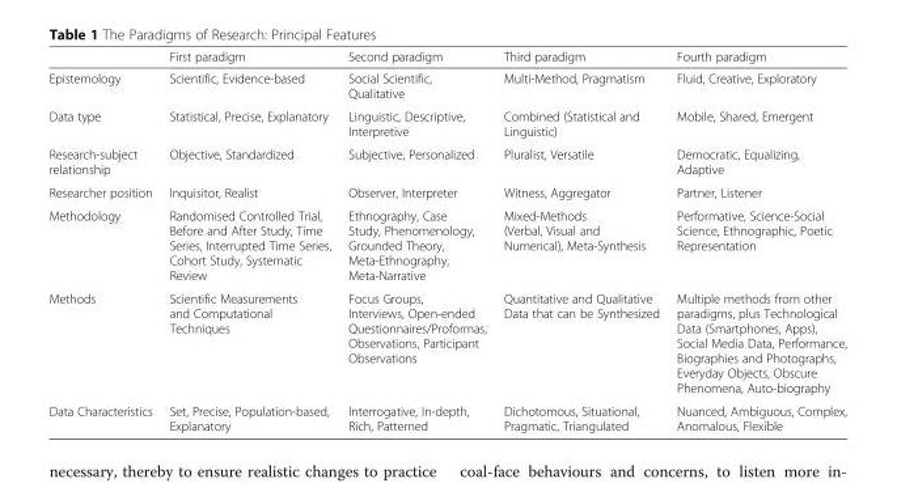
<table><thead><tr><td></td><td>First paradigm</td><td>Second paradigm</td><td>Third paradigm</td><td>Fourth paradigm</td></tr></thead><tbody><tr><td>Epistemology</td><td>Scientific, Evidence-based</td><td>Social Scientific, Qualitative</td><td>Multi-Method, Pragmatism</td><td>Fluid, Creative, Exploratory</td></tr><tr><td>Data type</td><td>Statistical, Precise, Explanatory</td><td>Linguistic, Descriptive, Interpretive</td><td>Combined (Statistical and Linguistic)</td><td>Mobile, Shared, Emergent</td></tr><tr><td>Research-subject relationship</td><td>Objective, Standardized</td><td>Subjective, Personalized</td><td>Pluralist, Versatile</td><td>Democratic, Equalizing, Adaptive</td></tr><tr><td>Researcher position</td><td>Inquisitor, Realist</td><td>Observer, Interpreter</td><td>Witness, Aggregator</td><td>Partner, Listener</td></tr><tr><td>Methodology</td><td>Randomised Controlled Trial, Before and After Study, Time Series, Interrupted Time Series, Cohort Study, Systematic Review</td><td>Ethnography, Case Study, Phenomenology, Grounded Theory, Meta-Ethnography, Meta-Narrative</td><td>Mixed-Methods (Verbal, Visual and Numerical), Meta-Synthesis</td><td>Performative, Science-Social Science, Ethnographic, Poetic Representation</td></tr><tr><td>Methods</td><td>Scientific Measurements and Computational Techniques</td><td>Focus Groups, Interviews, Open-ended Questionnaires/Proformas, Observations, Participant Observations</td><td>Quantitative and Qualitative Data that can be Synthesized</td><td>Multiple methods from other paradigms, plus Technological Data (Smartphones, Apps), Social Media Data, Performance, Biographies and Photographs, Everyday Objects, Obscure Phenomena, Auto-biography</td></tr><tr><td>Data Characteristics</td><td>Set, Precise, Population-based, Explanatory</td><td>Interrogative, In-depth, Rich, Patterned</td><td>Dichotomous, Situational, Pragmatic, Triangulated</td><td>Nuanced, Ambiguous, Complex, Anomalous, Flexible</td></tr></tbody></table>